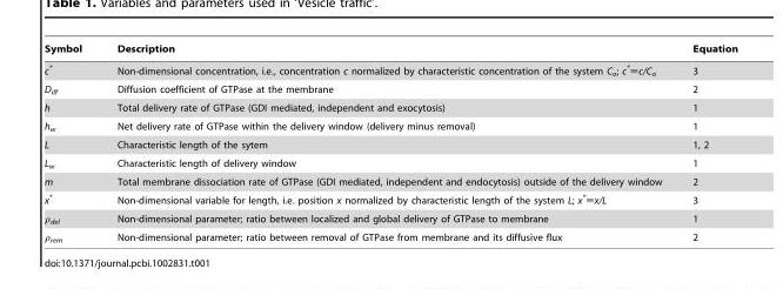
<table><thead><tr><td>Symbol</td><td>Description</td><td>Equation</td></tr></thead><tbody><tr><td>c*</td><td>Non-dimensional concentration, i.e., concentration c normalized by characteristic concentration of the system C<sub>o</sub>; c*≡c/C<sub>o</sub></td><td>3</td></tr><tr><td>D<sub>iff</sub></td><td>Diffusion coefficient of GTPase at the membrane</td><td>2</td></tr><tr><td>h</td><td>Total delivery rate of GTPase (GDI mediated, independent and exocytosis)</td><td>1</td></tr><tr><td>h<sub>w</sub></td><td>Net delivery rate of GTPase within the delivery window (delivery minus removal)</td><td>1</td></tr><tr><td>L</td><td>Characteristic length of the sytem</td><td>1, 2</td></tr><tr><td>L<sub>w</sub></td><td>Characteristic length of delivery window</td><td>1</td></tr><tr><td>m</td><td>Total membrane dissociation rate of GTPase (GDI mediated, independent and endocytosis) outside of the delivery window</td><td>2</td></tr><tr><td>x*</td><td>Non-dimensional variable for length, i.e. position x normalized by characteristic length of the system L; x*≡x/L</td><td>3</td></tr><tr><td>ρ<sub>del</sub></td><td>Non-dimensional parameter; ratio between localized and global delivery of GTPase to membrane</td><td>1</td></tr><tr><td>ρ<sub>rem</sub></td><td>Non-dimensional parameter; ratio between removal of GTPase from membrane and its diffusive flux</td><td>2</td></tr></tbody></table>